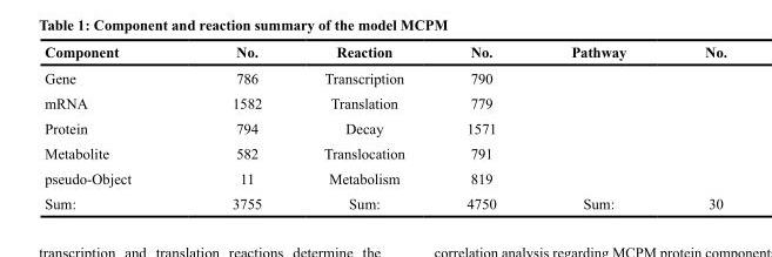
<table><thead><tr><td>Component</td><td>No.</td><td>Reaction</td><td>No.</td><td>Pathway</td><td>No.</td></tr></thead><tbody><tr><td>Gene</td><td>786</td><td>Transcription</td><td>790</td><td></td><td></td></tr><tr><td>mRNA</td><td>1582</td><td>Translation</td><td>779</td><td></td><td></td></tr><tr><td>Protein</td><td>794</td><td>Decay</td><td>1571</td><td></td><td></td></tr><tr><td>Metabolite</td><td>582</td><td>Translocation</td><td>791</td><td></td><td></td></tr><tr><td>pseudo-Object</td><td>11</td><td>Metabolism</td><td>819</td><td></td><td></td></tr><tr><td>Sum:</td><td>3755</td><td>Sum:</td><td>4750</td><td>Sum:</td><td>30</td></tr></tbody></table>